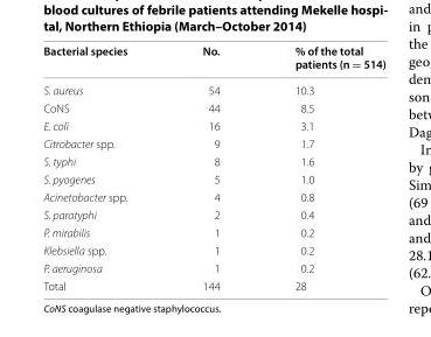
<table><thead><tr><td>Bacterial species</td><td>No.</td><td>% of the total patients (n = 514)</td></tr></thead><tbody><tr><td>S. aureus</td><td>54</td><td>10.3</td></tr><tr><td>CoNS</td><td>44</td><td>8.5</td></tr><tr><td>E. coli</td><td>16</td><td>3.1</td></tr><tr><td>Citrobacter spp.</td><td>9</td><td>1.7</td></tr><tr><td>S. typhi</td><td>8</td><td>1.6</td></tr><tr><td>S. pyogenes</td><td>5</td><td>1.0</td></tr><tr><td>Acinetobacter spp.</td><td>4</td><td>0.8</td></tr><tr><td>S. paratyphi</td><td>2</td><td>0.4</td></tr><tr><td>P. mirabilis</td><td>1</td><td>0.2</td></tr><tr><td>Klebsiella spp.</td><td>1</td><td>0.2</td></tr><tr><td>P. aeruginosa</td><td>1</td><td>0.2</td></tr><tr><td>Total</td><td>144</td><td>28</td></tr></tbody></table>